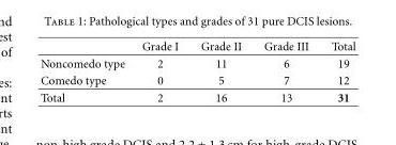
<table><thead><tr><td></td><td>Grade I</td><td>Grade II</td><td>Grade III</td><td>Total</td></tr></thead><tbody><tr><td>Noncomedo type</td><td>2</td><td>11</td><td>6</td><td>19</td></tr><tr><td>Comedo type</td><td>0</td><td>5</td><td>7</td><td>12</td></tr><tr><td>Total</td><td>2</td><td>16</td><td>13</td><td>31</td></tr></tbody></table>